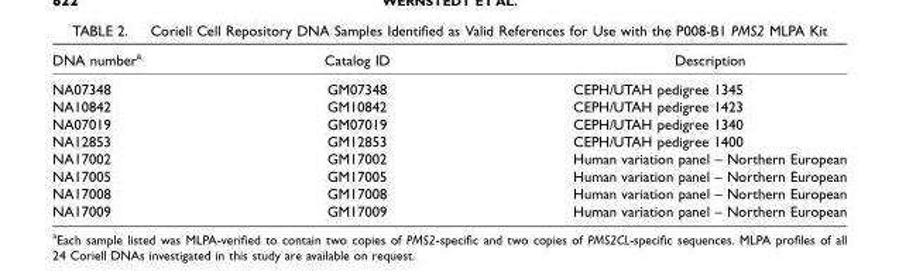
<table><thead><tr><td>DNA number<sup>a</sup></td><td>Catalog ID</td><td>Description</td></tr></thead><tbody><tr><td>NA07348</td><td>GM07348</td><td>CEPH/UTAH pedigree 1345</td></tr><tr><td>NA10842</td><td>GM10842</td><td>CEPH/UTAH pedigree 1423</td></tr><tr><td>NA07019</td><td>GM07019</td><td>CEPH/UTAH pedigree 1340</td></tr><tr><td>NA12853</td><td>GM12853</td><td>CEPH/UTAH pedigree 1400</td></tr><tr><td>NA17002</td><td>GM17002</td><td>Human variation panel – Northern European</td></tr><tr><td>NA17005</td><td>GM17005</td><td>Human variation panel – Northern European</td></tr><tr><td>NA17008</td><td>GM17008</td><td>Human variation panel – Northern European</td></tr><tr><td>NA17009</td><td>GM17009</td><td>Human variation panel – Northern European</td></tr></tbody></table>